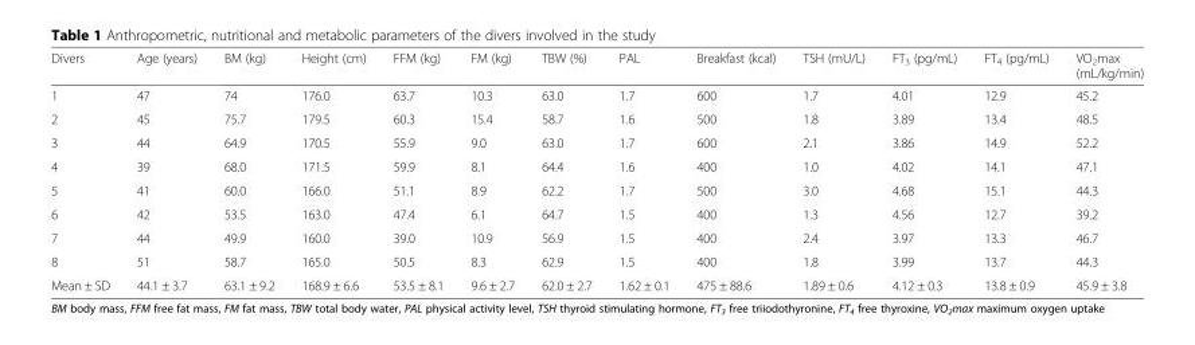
<table><thead><tr><td>Divers</td><td>Age (years)</td><td>BM (kg)</td><td>Height (cm)</td><td>FFM (kg)</td><td>FM (kg)</td><td>TBW (%)</td><td>PAL</td><td>Breakfast (kcal)</td><td>TSH (mU/L)</td><td>FT<sub>3</sub> (pg/mL)</td><td>FT<sub>4</sub> (pg/mL)</td><td>VO<sub>2</sub>max (mL/kg/min)</td></tr></thead><tbody><tr><td>1</td><td>47</td><td>74</td><td>176.0</td><td>63.7</td><td>10.3</td><td>63.0</td><td>1.7</td><td>600</td><td>1.7</td><td>4.01</td><td>12.9</td><td>45.2</td></tr><tr><td>2</td><td>45</td><td>75.7</td><td>179.5</td><td>60.3</td><td>15.4</td><td>58.7</td><td>1.6</td><td>500</td><td>1.8</td><td>3.89</td><td>13.4</td><td>48.5</td></tr><tr><td>3</td><td>44</td><td>64.9</td><td>170.5</td><td>55.9</td><td>9.0</td><td>63.0</td><td>1.7</td><td>600</td><td>2.1</td><td>3.86</td><td>14.9</td><td>52.2</td></tr><tr><td>4</td><td>39</td><td>68.0</td><td>171.5</td><td>59.9</td><td>8.1</td><td>64.4</td><td>1.6</td><td>400</td><td>1.0</td><td>4.02</td><td>14.1</td><td>47.1</td></tr><tr><td>5</td><td>41</td><td>60.0</td><td>166.0</td><td>51.1</td><td>8.9</td><td>62.2</td><td>1.7</td><td>500</td><td>3.0</td><td>4.68</td><td>15.1</td><td>44.3</td></tr><tr><td>6</td><td>42</td><td>53.5</td><td>163.0</td><td>47.4</td><td>6.1</td><td>64.7</td><td>1.5</td><td>400</td><td>1.3</td><td>4.56</td><td>12.7</td><td>39.2</td></tr><tr><td>7</td><td>44</td><td>49.9</td><td>160.0</td><td>39.0</td><td>10.9</td><td>56.9</td><td>1.5</td><td>400</td><td>2.4</td><td>3.97</td><td>13.3</td><td>46.7</td></tr><tr><td>8</td><td>51</td><td>58.7</td><td>165.0</td><td>50.5</td><td>8.3</td><td>62.9</td><td>1.5</td><td>400</td><td>1.8</td><td>3.99</td><td>13.7</td><td>44.3</td></tr><tr><td>Mean ± SD</td><td>44.1 ± 3.7</td><td>63.1 ± 9.2</td><td>168.9 ± 6.6</td><td>53.5 ± 8.1</td><td>9.6 ± 2.7</td><td>62.0 ± 2.7</td><td>1.62 ± 0.1</td><td>475 ± 88.6</td><td>1.89 ± 0.6</td><td>4.12 ± 0.3</td><td>13.8 ± 0.9</td><td>45.9 ± 3.8</td></tr></tbody></table>